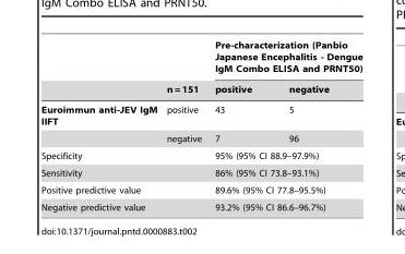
<table><thead><tr><td rowspan="2"></td><td rowspan="2">n = 151</td><td colspan="2">Pre-characterization (Panbio Japanese Encephalitis - Dengue IgM Combo ELISA and PRNT50)</td></tr><tr><td>positive</td><td>negative</td></tr></thead><tbody><tr><td rowspan="2">Euroimmun anti-JEV IgM IIFT</td><td>positive</td><td>43</td><td>5</td></tr><tr><td>negative</td><td>7</td><td>96</td></tr><tr><td colspan="2">Specificity</td><td colspan="2">95% (95% CI 88.9–97.9%)</td></tr><tr><td colspan="2">Sensitivity</td><td colspan="2">86% (95% CI 73.8–93.1%)</td></tr><tr><td colspan="2">Positive predictive value</td><td colspan="2">89.6% (95% CI 77.8–95.5%)</td></tr><tr><td colspan="2">Negative predictive value</td><td colspan="2">93.2% (95% CI 86.6–96.7%)</td></tr></tbody></table>